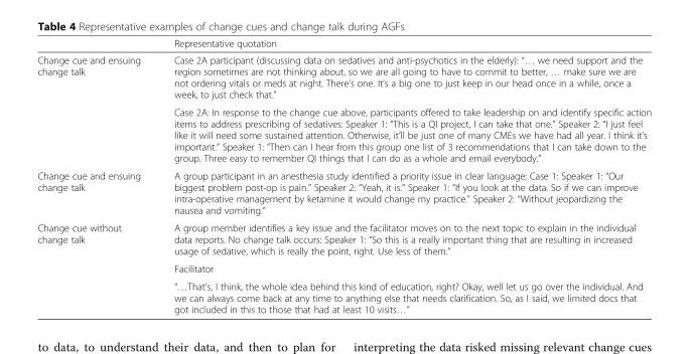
<table><thead><tr><td></td><td>Representative quotation</td></tr></thead><tbody><tr><td rowspan="2">Change cue and ensuing change talk</td><td>Case 2A participant (discussing data on sedatives and anti-psychotics in the elderly): “… we need support and the region sometimes are not thinking about, so we are all going to have to commit to better, … make sure we are not ordering vitals or meds at night. There’s one. It’s a big one to just keep in our head once in a while, once a week, to just check that.”</td></tr><tr><td>Case 2A: In response to the change cue above, participants offered to take leadership on and identify specific action items to address prescribing of sedatives: Speaker 1: “This is a QI project, I can take that one.” Speaker 2: “I just feel like it will need some sustained attention. Otherwise, it’ll be just one of many CMEs we have had all year. I think it’s important.” Speaker 1: “Then can I hear from this group one list of 3 recommendations that I can take down to the group. Three easy to remember QI things that I can do as a whole and email everybody.”</td></tr><tr><td>Change cue and ensuing change talk</td><td>A group participant in an anesthesia study identified a priority issue in clear language: Case 1: Speaker 1: “Our biggest problem post-op is pain.” Speaker 2: “Yeah, it is.” Speaker 1: “If you look at the data. So if we can improve intra-operative management by ketamine it would change my practice.” Speaker 2: “Without jeopardizing the nausea and vomiting.”</td></tr><tr><td rowspan="3">Change cue without change talk</td><td>A group member identifies a key issue and the facilitator moves on to the next topic to explain in the individual data reports. No change talk occurs: Speaker 1: “So this is a really important thing that are resulting in increased usage of sedative, which is really the point, right. Use less of them.”</td></tr><tr><td>Facilitator</td></tr><tr><td>“…That’s, I think, the whole idea behind this kind of education, right? Okay, well let us go over the individual. And we can always come back at any time to anything else that needs clarification. So, as I said, we limited docs that got included in this to those that had at least 10 visits…”</td></tr></tbody></table>